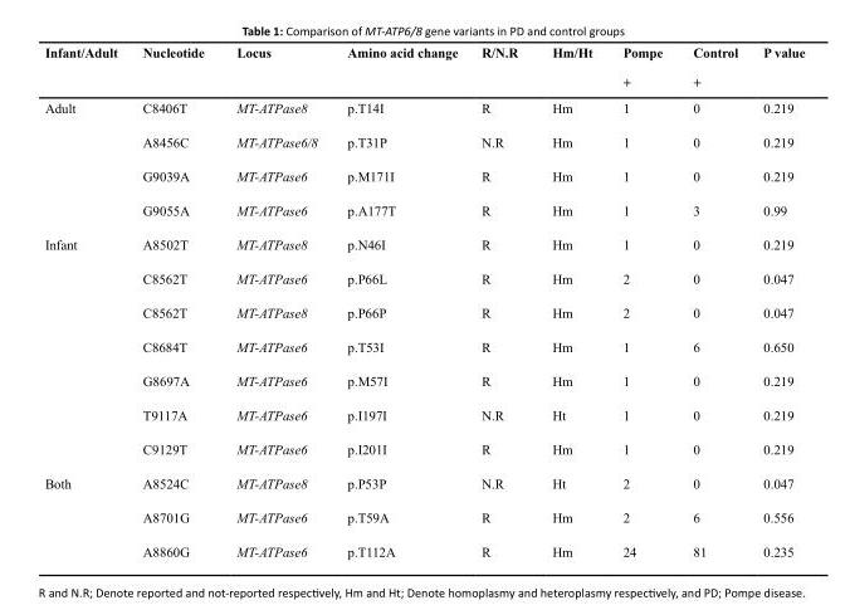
<table><thead><tr><td rowspan="2">Infant/Adult</td><td rowspan="2">Nucleotide</td><td rowspan="2">Locus</td><td rowspan="2">Amino acid change</td><td rowspan="2">R/N.R</td><td rowspan="2">Hm/Ht</td><td rowspan="2">Pompe +</td><td rowspan="2">Control +</td><td rowspan="2">P value</td></tr><tr></tr></thead><tbody><tr><td rowspan="4">Adult</td><td>C8406T</td><td>MT-ATPase8</td><td>p.T14I</td><td>R</td><td>Hm</td><td>1</td><td>0</td><td>0.219</td></tr><tr><td>A8456C</td><td>MT-ATPase6/8</td><td>p.T31P</td><td>N.R</td><td>Hm</td><td>1</td><td>0</td><td>0.219</td></tr><tr><td>G9039A</td><td>MT-ATPase6</td><td>p.M171I</td><td>R</td><td>Hm</td><td>1</td><td>0</td><td>0.219</td></tr><tr><td>G9055A</td><td>MT-ATPase6</td><td>p.A177T</td><td>R</td><td>Hm</td><td>1</td><td>3</td><td>0.99</td></tr><tr><td rowspan="7">Infant</td><td>A8502T</td><td>MT-ATPase8</td><td>p.N46I</td><td>R</td><td>Hm</td><td>1</td><td>0</td><td>0.219</td></tr><tr><td>C8562T</td><td>MT-ATPase6</td><td>p.P66L</td><td>R</td><td>Hm</td><td>2</td><td>0</td><td>0.047</td></tr><tr><td>C8562T</td><td>MT-ATPase8</td><td>p.P66P</td><td>R</td><td>Hm</td><td>2</td><td>0</td><td>0.047</td></tr><tr><td>C8684T</td><td>MT-ATPase6</td><td>p.T53I</td><td>R</td><td>Hm</td><td>1</td><td>6</td><td>0.650</td></tr><tr><td>G8697A</td><td>MT-ATPase6</td><td>p.M57I</td><td>R</td><td>Hm</td><td>1</td><td>0</td><td>0.219</td></tr><tr><td>T9117A</td><td>MT-ATPase6</td><td>p.I197I</td><td>N.R</td><td>Ht</td><td>1</td><td>0</td><td>0.219</td></tr><tr><td>C9129T</td><td>MT-ATPase6</td><td>p.I201I</td><td>R</td><td>Hm</td><td>1</td><td>0</td><td>0.219</td></tr><tr><td rowspan="3">Both</td><td>A8524C</td><td>MT-ATPase8</td><td>p.P53P</td><td>N.R</td><td>Ht</td><td>2</td><td>0</td><td>0.047</td></tr><tr><td>A8701G</td><td>MT-ATPase6</td><td>p.T59A</td><td>R</td><td>Hm</td><td>2</td><td>6</td><td>0.556</td></tr><tr><td>A8860G</td><td>MT-ATPase6</td><td>p.T112A</td><td>R</td><td>Hm</td><td>24</td><td>81</td><td>0.235</td></tr></tbody></table>